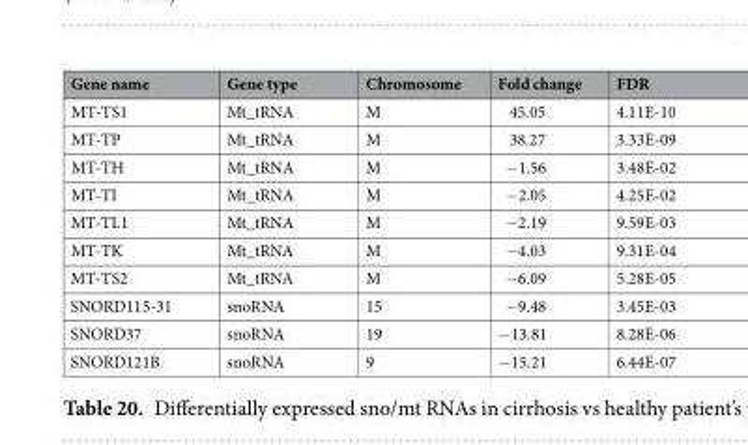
<table><thead><tr><td>Gene name</td><td>Gene type</td><td>Chromosome</td><td>Fold change</td><td>FDR</td></tr></thead><tbody><tr><td>MT-TS1</td><td>Mt_tRNA</td><td>M</td><td>45.05</td><td>4.11E-10</td></tr><tr><td>MT-TP</td><td>Mt_tRNA</td><td>M</td><td>38.27</td><td>3.33E-09</td></tr><tr><td>MT-TH</td><td>Mt_tRNA</td><td>M</td><td>−1.56</td><td>3.48E-02</td></tr><tr><td>MT-TI</td><td>Mt_tRNA</td><td>M</td><td>−2.05</td><td>4.25E-02</td></tr><tr><td>MT-TL1</td><td>Mt_tRNA</td><td>M</td><td>−2.19</td><td>9.59E-03</td></tr><tr><td>MT-TK</td><td>Mt_tRNA</td><td>M</td><td>−4.03</td><td>9.31E-04</td></tr><tr><td>MT-TS2</td><td>Mt_tRNA</td><td>M</td><td>−6.09</td><td>5.28E-05</td></tr><tr><td>SNORD115-31</td><td>snoRNA</td><td>15</td><td>−9.48</td><td>3.45E-03</td></tr><tr><td>SNORD37</td><td>snoRNA</td><td>19</td><td>−13.81</td><td>8.28E-06</td></tr><tr><td>SNORD121B</td><td>snoRNA</td><td>9</td><td>−15.21</td><td>6.44E-07</td></tr></tbody></table>